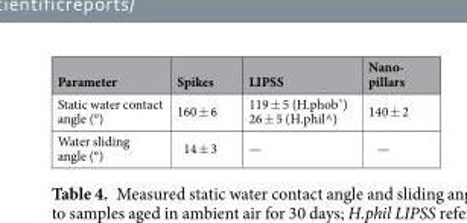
<table><thead><tr><td>Parameter</td><td>Spikes</td><td>LIPSS</td><td>Nano- pillars</td></tr></thead><tbody><tr><td>Static water contact angle (°)</td><td>160 ± 6</td><td>119 ± 5 (H.phob<sup>^</sup>) 26 ± 5 (H.phil^)</td><td>140 ± 2</td></tr><tr><td>Water sliding angle (°)</td><td>14 ± 3</td><td>—</td><td>—</td></tr></tbody></table>